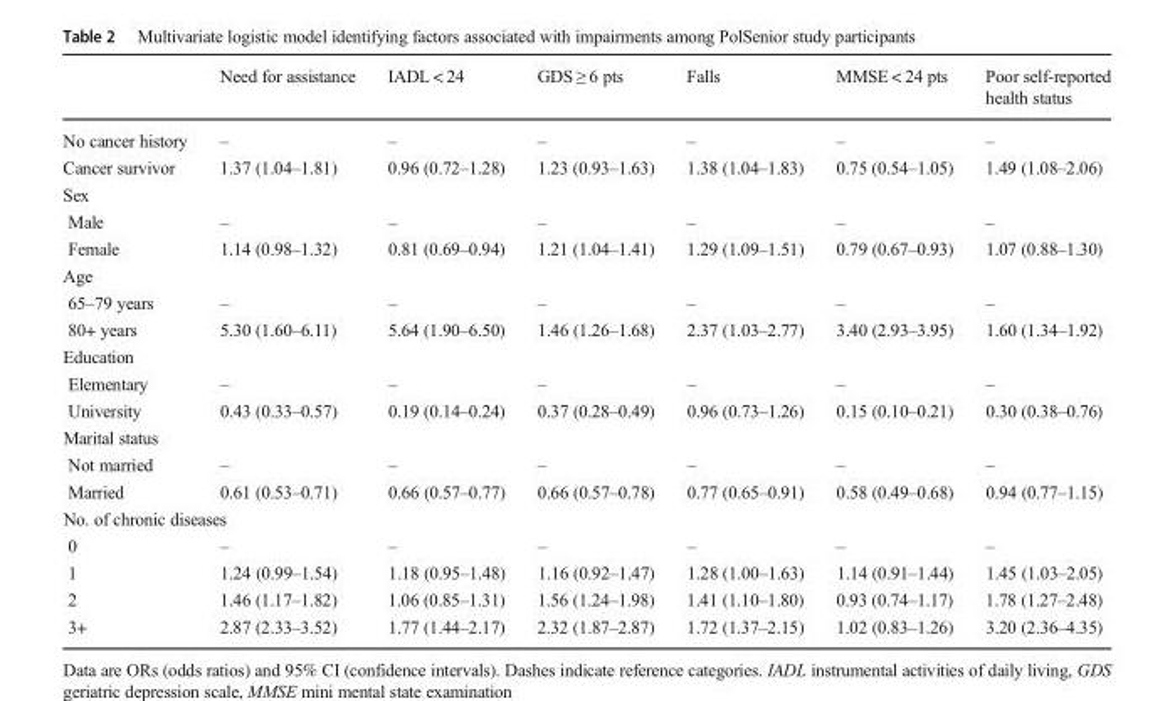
<table><thead><tr><td></td><td>Need for assistance</td><td>IADL &lt; 24</td><td>GDS ≥ 6 pts</td><td>Falls</td><td>MMSE &lt; 24 pts</td><td>Poor self-reported health status</td></tr></thead><tbody><tr><td>No cancer history</td><td>–</td><td>–</td><td>–</td><td>–</td><td>–</td><td>–</td></tr><tr><td>Cancer survivor</td><td>1.37 (1.04–1.81)</td><td>0.96 (0.72–1.28)</td><td>1.23 (0.93–1.63)</td><td>1.38 (1.04–1.83)</td><td>0.75 (0.54–1.05)</td><td>1.49 (1.08–2.06)</td></tr><tr><td colspan="7">Sex</td></tr><tr><td>Male</td><td>–</td><td>–</td><td>–</td><td>–</td><td>–</td><td>–</td></tr><tr><td>Female</td><td>1.14 (0.98–1.32)</td><td>0.81 (0.69–0.94)</td><td>1.21 (1.04–1.41)</td><td>1.29 (1.09–1.51)</td><td>0.79 (0.67–0.93)</td><td>1.07 (0.88–1.30)</td></tr><tr><td colspan="7">Age</td></tr><tr><td>65–79 years</td><td>–</td><td>–</td><td>–</td><td>–</td><td>–</td><td>–</td></tr><tr><td>80+ years</td><td>5.30 (1.60–6.11)</td><td>5.64 (1.90–6.50)</td><td>1.46 (1.26–1.68)</td><td>2.37 (1.03–2.77)</td><td>3.40 (2.93–3.95)</td><td>1.60 (1.34–1.92)</td></tr><tr><td colspan="7">Education</td></tr><tr><td>Elementary</td><td>–</td><td>–</td><td>–</td><td>–</td><td>–</td><td>–</td></tr><tr><td>University</td><td>0.43 (0.33–0.57)</td><td>0.19 (0.14–0.24)</td><td>0.37 (0.28–0.49)</td><td>0.96 (0.73–1.26)</td><td>0.15 (0.10–0.21)</td><td>0.30 (0.38–0.76)</td></tr><tr><td colspan="7">Marital status</td></tr><tr><td>Not married</td><td>–</td><td>–</td><td>–</td><td>–</td><td>–</td><td>–</td></tr><tr><td>Married</td><td>0.61 (0.53–0.71)</td><td>0.66 (0.57–0.77)</td><td>0.66 (0.57–0.78)</td><td>0.77 (0.65–0.91)</td><td>0.58 (0.49–0.68)</td><td>0.94 (0.77–1.15)</td></tr><tr><td colspan="7">No. of chronic diseases</td></tr><tr><td>0</td><td>–</td><td>–</td><td>–</td><td>–</td><td>–</td><td>–</td></tr><tr><td>1</td><td>1.24 (0.99–1.54)</td><td>1.18 (0.95–1.48)</td><td>1.16 (0.92–1.47)</td><td>1.28 (1.00–1.63)</td><td>1.14 (0.91–1.44)</td><td>1.45 (1.03–2.05)</td></tr><tr><td>2</td><td>1.46 (1.17–1.82)</td><td>1.06 (0.85–1.31)</td><td>1.56 (1.24–1.98)</td><td>1.41 (1.10–1.80)</td><td>0.93 (0.74–1.17)</td><td>1.78 (1.27–2.48)</td></tr><tr><td>3+</td><td>2.87 (2.33–3.52)</td><td>1.77 (1.44–2.17)</td><td>2.32 (1.87–2.87)</td><td>1.72 (1.37–2.15)</td><td>1.02 (0.83–1.26)</td><td>3.20 (2.36–4.35)</td></tr></tbody></table>